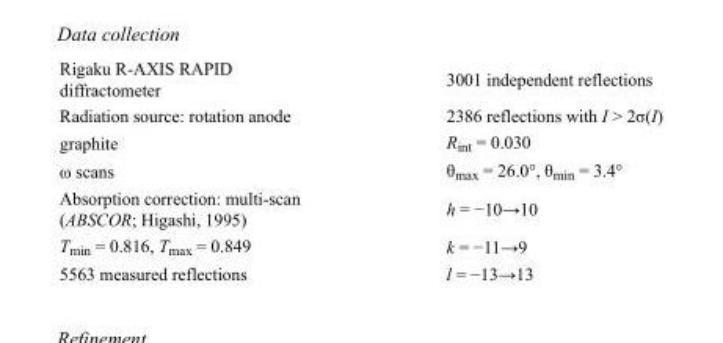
<table><tbody><tr><td>Rigaku R-AXIS RAPID diffractometer</td><td>3001 independent reflections</td></tr><tr><td>Radiation source: rotation anode</td><td>2386 reflections with I &gt; 2σ(I)</td></tr><tr><td>graphite</td><td>R<sub>int</sub> = 0.030</td></tr><tr><td>ω scans</td><td>θ<sub>max</sub> = 26.0°, θ<sub>min</sub> = 3.4°</td></tr><tr><td>Absorption correction: multi-scan (ABSCOR; Higashi, 1995)</td><td>h = −10→10</td></tr><tr><td>T<sub>min</sub> = 0.816, T<sub>max</sub> = 0.849</td><td>k = −11→9</td></tr><tr><td>5563 measured reflections</td><td>l = −13→13</td></tr></tbody></table>